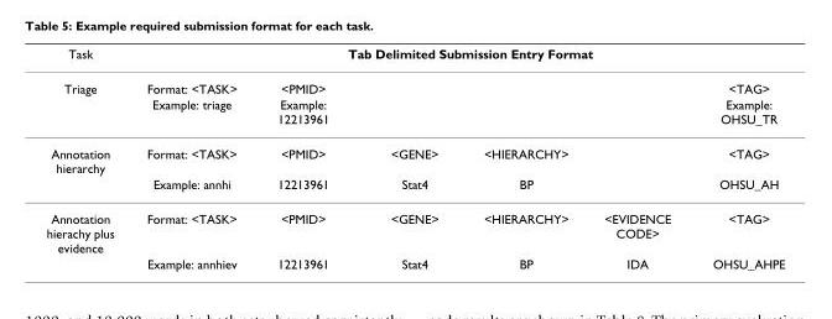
<table><thead><tr><td rowspan="2">Task Triage</td><td colspan="6">Tab Delimited Submission Entry Format</td></tr><tr><td>Format: &lt;TASK&gt;</td><td>&lt;PMID&gt;</td><td></td><td></td><td></td><td>&lt;TAG&gt;</td></tr></thead><tbody><tr><td></td><td>Example: triage</td><td>Example: 12213961</td><td></td><td></td><td></td><td>Example: OHSU_TR</td></tr><tr><td rowspan="2">Annotation hierarchy</td><td>Format: &lt;TASK&gt;</td><td>&lt;PMID&gt;</td><td>&lt;GENE&gt;</td><td>&lt;HIERARCHY&gt;</td><td></td><td>&lt;TAG&gt;</td></tr><tr><td>Example: annhi</td><td>12213961</td><td>Stat4</td><td>BP</td><td></td><td>OHSU_AH</td></tr><tr><td rowspan="2">Annotation hierachy plus evidence</td><td>Format: &lt;TASK&gt;</td><td>&lt;PMID&gt;</td><td>&lt;GENE&gt;</td><td>&lt;HIERARCHY&gt;</td><td>&lt;EVIDENCE CODE&gt;</td><td>&lt;TAG&gt;</td></tr><tr><td>Example: annhiev</td><td>12213961</td><td>Stat4</td><td>BP</td><td>IDA</td><td>OHSU_AHPE</td></tr></tbody></table>